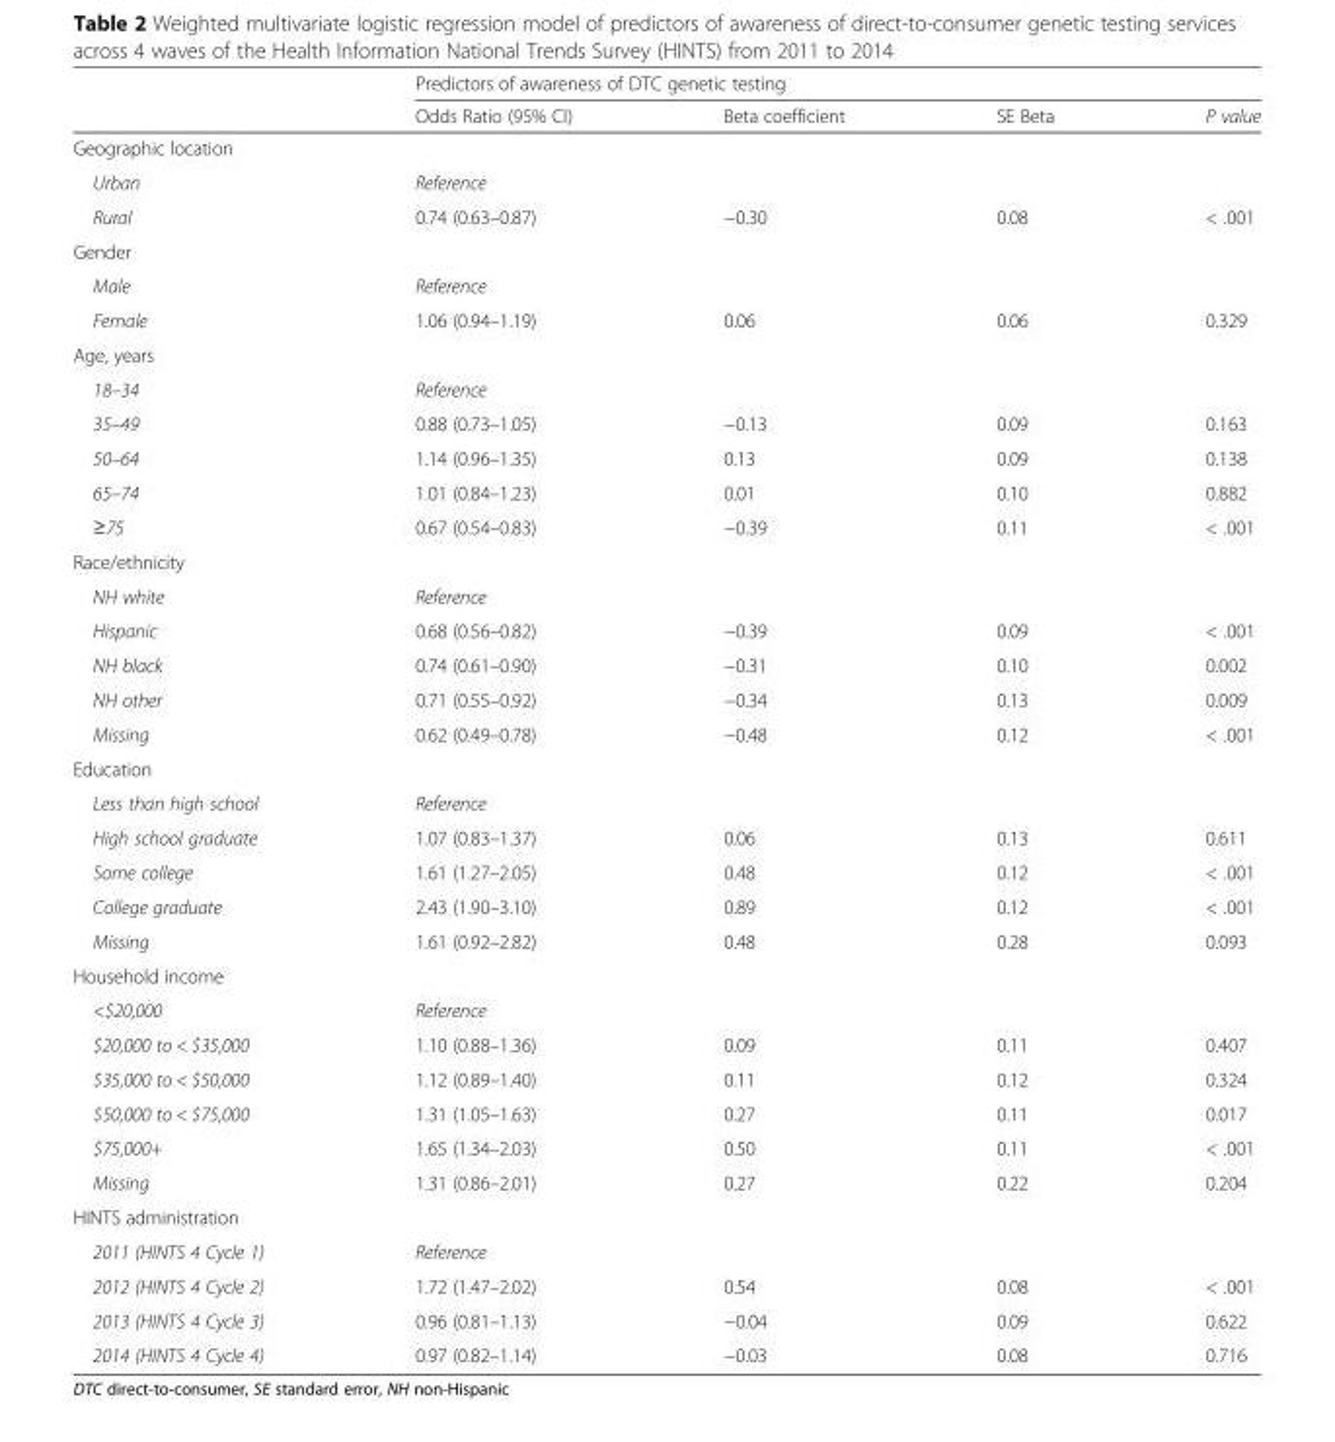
<table><thead><tr><td rowspan="2"></td><td colspan="4">Predictors of awareness of DTC genetic testing</td></tr><tr><td>Odds Ratio (95% CI)</td><td>Beta coefficient</td><td>SE Beta</td><td>P value</td></tr></thead><tbody><tr><td colspan="5">Geographic location</td></tr><tr><td>Urban</td><td>Reference</td><td></td><td></td><td></td></tr><tr><td>Rural</td><td>0.74 (0.63–0.87)</td><td>−0.30</td><td>0.08</td><td>&lt; .001</td></tr><tr><td colspan="5">Gender</td></tr><tr><td>Male</td><td>Reference</td><td></td><td></td><td></td></tr><tr><td>Female</td><td>1.06 (0.94–1.19)</td><td>0.06</td><td>0.06</td><td>0.329</td></tr><tr><td colspan="5">Age, years</td></tr><tr><td>18–34</td><td>Reference</td><td></td><td></td><td></td></tr><tr><td>35–49</td><td>0.88 (0.73–1.05)</td><td>−0.13</td><td>0.09</td><td>0.163</td></tr><tr><td>50–64</td><td>1.14 (0.96–1.35)</td><td>0.13</td><td>0.09</td><td>0.138</td></tr><tr><td>65–74</td><td>1.01 (0.84–1.23)</td><td>0.01</td><td>0.10</td><td>0.882</td></tr><tr><td>≥75</td><td>0.67 (0.54–0.83)</td><td>−0.39</td><td>0.11</td><td>&lt; .001</td></tr><tr><td colspan="5">Race/ethnicity</td></tr><tr><td>NH white</td><td>Reference</td><td></td><td></td><td></td></tr><tr><td>Hispanic</td><td>0.68 (0.56–0.82)</td><td>−0.39</td><td>0.09</td><td>&lt; .001</td></tr><tr><td>NH black</td><td>0.74 (0.61–0.90)</td><td>−0.31</td><td>0.10</td><td>0.002</td></tr><tr><td>NH other</td><td>0.71 (0.55–0.92)</td><td>−0.34</td><td>0.13</td><td>0.009</td></tr><tr><td>Missing</td><td>0.62 (0.49–0.78)</td><td>−0.48</td><td>0.12</td><td>&lt; .001</td></tr><tr><td colspan="5">Education</td></tr><tr><td>Less than high school</td><td>Reference</td><td></td><td></td><td></td></tr><tr><td>High school graduate</td><td>1.07 (0.83–1.37)</td><td>0.06</td><td>0.13</td><td>0.611</td></tr><tr><td>Some college</td><td>1.61 (1.27–2.05)</td><td>0.48</td><td>0.12</td><td>&lt; .001</td></tr><tr><td>College graduate</td><td>2.43 (1.90–3.10)</td><td>0.89</td><td>0.12</td><td>&lt; .001</td></tr><tr><td>Missing</td><td>1.61 (0.92–2.82)</td><td>0.48</td><td>0.28</td><td>0.093</td></tr><tr><td colspan="5">Household income</td></tr><tr><td>&lt;$20,000</td><td>Reference</td><td></td><td></td><td></td></tr><tr><td>$20,000 to &lt; $35,000</td><td>1.10 (0.88–1.36)</td><td>0.09</td><td>0.11</td><td>0.407</td></tr><tr><td>$35,000 to &lt; $50,000</td><td>1.12 (0.89–1.40)</td><td>0.11</td><td>0.12</td><td>0.324</td></tr><tr><td>$50,000 to &lt; $75,000</td><td>1.31 (1.05–1.63)</td><td>0.27</td><td>0.11</td><td>0.017</td></tr><tr><td>$75,000+</td><td>1.65 (1.34–2.03)</td><td>0.50</td><td>0.11</td><td>&lt; .001</td></tr><tr><td>Missing</td><td>1.31 (0.86–2.01)</td><td>0.27</td><td>0.22</td><td>0.204</td></tr><tr><td colspan="5">HINTS administration</td></tr><tr><td>2011 (HINTS 4 Cycle 1)</td><td>Reference</td><td></td><td></td><td></td></tr><tr><td>2012 (HINTS 4 Cycle 2)</td><td>1.72 (1.47–2.02)</td><td>0.54</td><td>0.08</td><td>&lt; .001</td></tr><tr><td>2013 (HINTS 4 Cycle 3)</td><td>0.96 (0.81–1.13)</td><td>−0.04</td><td>0.09</td><td>0.622</td></tr><tr><td>2014 (HINTS 4 Cycle 4)</td><td>0.97 (0.82–1.14)</td><td>−0.03</td><td>0.08</td><td>0.716</td></tr></tbody></table>